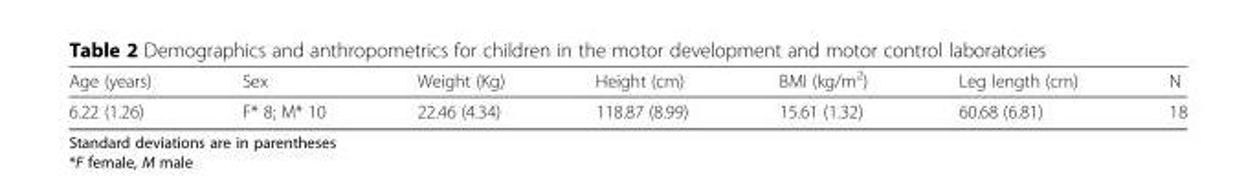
<table><thead><tr><td>Age (years)</td><td>Sex</td><td>Weight (Kg)</td><td>Height (cm)</td><td>BMI (kg/m<sup>2</sup>)</td><td>Leg length (cm)</td><td>N</td></tr></thead><tbody><tr><td>6.22 (1.26)</td><td>F* 8; M* 10</td><td>22.46 (4.34)</td><td>118.87 (8.99)</td><td>15.61 (1.32)</td><td>60.68 (6.81)</td><td>18</td></tr></tbody></table>